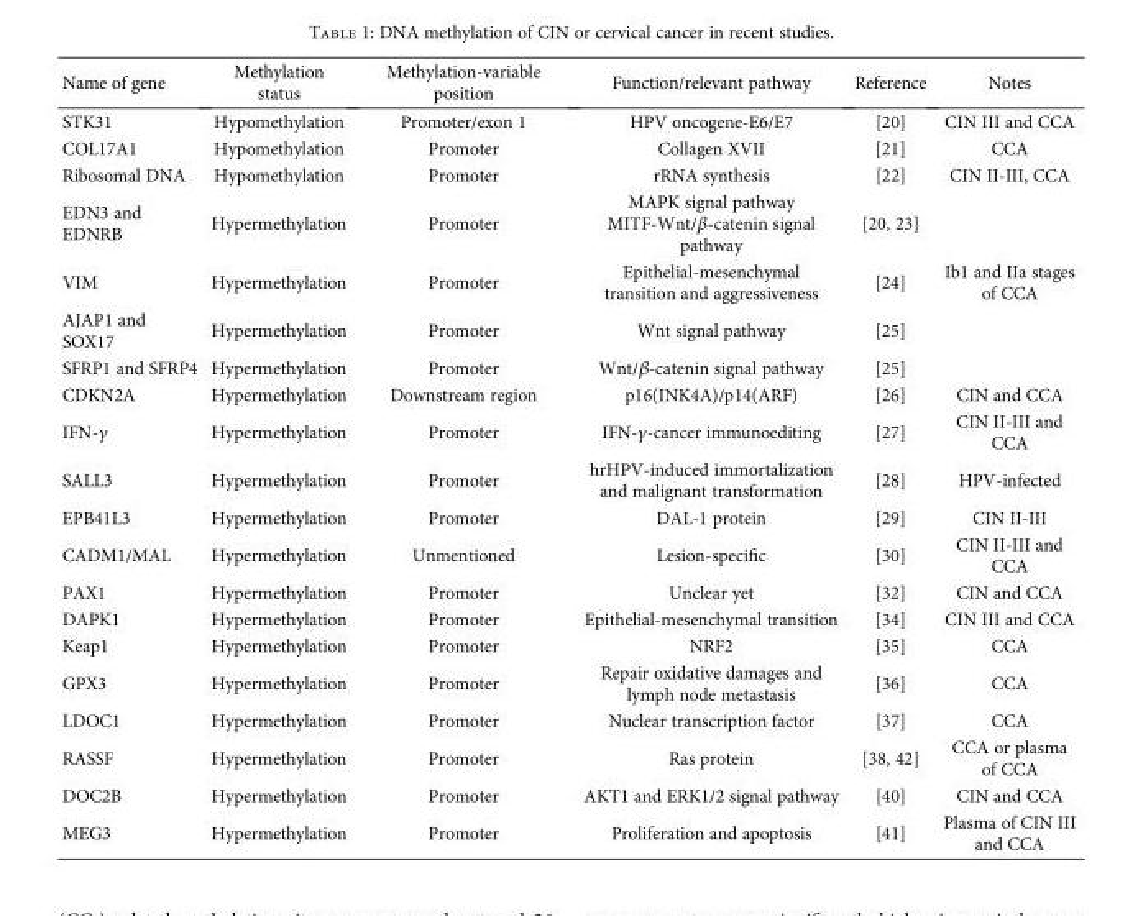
<table><thead><tr><td>Name of gene</td><td>Methylation status</td><td>Methylation-variable position</td><td>Function/relevant pathway</td><td>Reference</td><td>Notes</td></tr></thead><tbody><tr><td>STK31</td><td>Hypomethylation</td><td>Promoter/exon 1</td><td>HPV oncogene-E6/E7</td><td>[20]</td><td>CIN III and CCA</td></tr><tr><td>COL17A1</td><td>Hypomethylation</td><td>Promoter</td><td>Collagen XVII</td><td>[21]</td><td>CCA</td></tr><tr><td>Ribosomal DNA</td><td>Hypomethylation</td><td>Promoter</td><td>rRNA synthesis</td><td>[22]</td><td>CIN II-III, CCA</td></tr><tr><td>EDN3 and EDNRB</td><td>Hypermethylation</td><td>Promoter</td><td>MAPK signal pathway MITF-Wnt/β-catenin signal pathway</td><td>[20, 23]</td><td></td></tr><tr><td>VIM</td><td>Hypermethylation</td><td>Promoter</td><td>Epithelial-mesenchymal transition and aggressiveness</td><td>[24]</td><td>Ib1 and IIa stages of CCA</td></tr><tr><td>AJAP1 and SOX17</td><td>Hypermethylation</td><td>Promoter</td><td>Wnt signal pathway</td><td>[25]</td><td></td></tr><tr><td>SFRP1 and SFRP4</td><td>Hypermethylation</td><td>Promoter</td><td>Wnt/β-catenin signal pathway</td><td>[25]</td><td></td></tr><tr><td>CDKN2A</td><td>Hypermethylation</td><td>Downstream region</td><td>p16(INK4A)/p14(ARF)</td><td>[26]</td><td>CIN and CCA</td></tr><tr><td>IFN-γ</td><td>Hypermethylation</td><td>Promoter</td><td>IFN-γ-cancer immunoediting</td><td>[27]</td><td>CIN II-III and CCA</td></tr><tr><td>SALL3</td><td>Hypermethylation</td><td>Promoter</td><td>hrHPV-induced immortalization and malignant transformation</td><td>[28]</td><td>HPV-infected</td></tr><tr><td>EPB41L3</td><td>Hypermethylation</td><td>Promoter</td><td>DAL-1 protein</td><td>[29]</td><td>CIN II-III</td></tr><tr><td>CADM1/MAL</td><td>Hypermethylation</td><td>Unmentioned</td><td>Lesion-specific</td><td>[30]</td><td>CIN II-III and CCA</td></tr><tr><td>PAX1</td><td>Hypermethylation</td><td>Promoter</td><td>Unclear yet</td><td>[32]</td><td>CIN and CCA</td></tr><tr><td>DAPK1</td><td>Hypermethylation</td><td>Promoter</td><td>Epithelial-mesenchymal transition</td><td>[34]</td><td>CIN III and CCA</td></tr><tr><td>Keap1</td><td>Hypermethylation</td><td>Promoter</td><td>NRF2</td><td>[35]</td><td>CCA</td></tr><tr><td>GPX3</td><td>Hypermethylation</td><td>Promoter</td><td>Repair oxidative damages and lymph node metastasis</td><td>[36]</td><td>CCA</td></tr><tr><td>LDOC1</td><td>Hypermethylation</td><td>Promoter</td><td>Nuclear transcription factor</td><td>[37]</td><td>CCA</td></tr><tr><td>RASSF</td><td>Hypermethylation</td><td>Promoter</td><td>Ras protein</td><td>[38, 42]</td><td>CCA or plasma of CCA</td></tr><tr><td>DOC2B</td><td>Hypermethylation</td><td>Promoter</td><td>AKT1 and ERK1/2 signal pathway</td><td>[40]</td><td>CIN and CCA</td></tr><tr><td>MEG3</td><td>Hypermethylation</td><td>Promoter</td><td>Proliferation and apoptosis</td><td>[41]</td><td>Plasma of CIN III and CCA</td></tr></tbody></table>